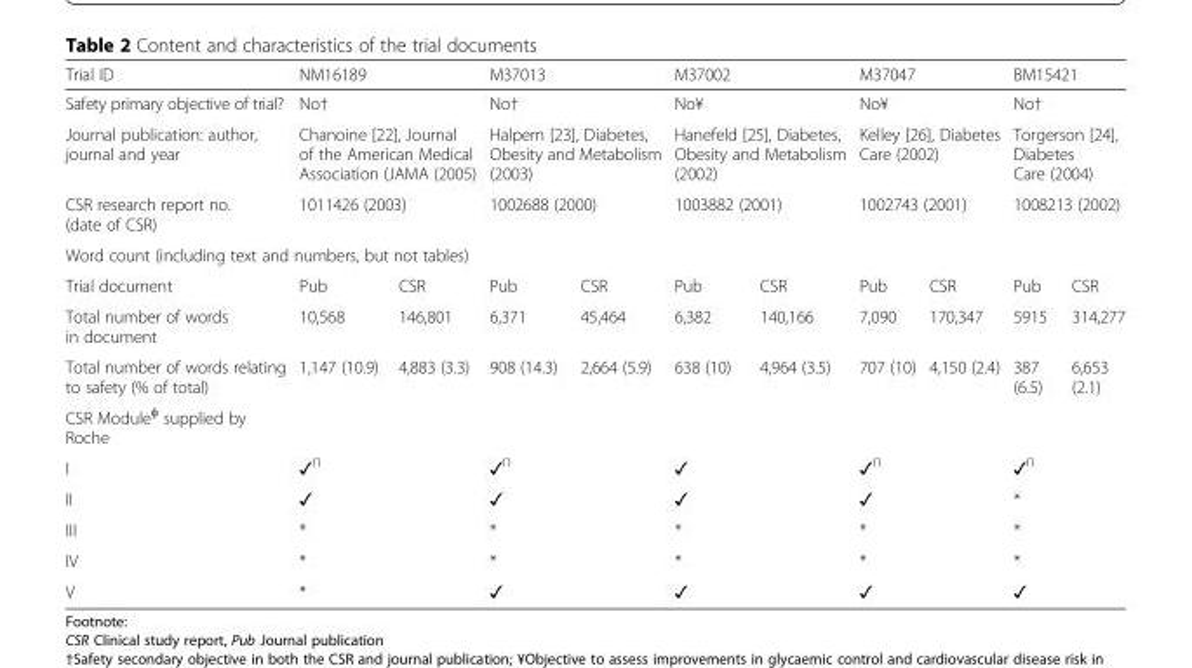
<table><thead><tr><td>Trial ID</td><td colspan="2">NM16189</td><td colspan="2">M37013</td><td colspan="2">M37002</td><td colspan="2">M37047</td><td colspan="2">BM15421</td></tr></thead><tbody><tr><td>Safety primary objective of trial?</td><td colspan="2">No†</td><td colspan="2">No†</td><td colspan="2">No¥</td><td colspan="2">No¥</td><td colspan="2">No†</td></tr><tr><td>Journal publication: author, journal and year</td><td colspan="2">Chanoine [22], Journal of the American Medical Association (JAMA (2005)</td><td colspan="2">Halpern [23], Diabetes, Obesity and Metabolism (2003)</td><td colspan="2">Hanefeld [25], Diabetes, Obesity and Metabolism (2002)</td><td colspan="2">Kelley [26], Diabetes Care (2002)</td><td colspan="2">Torgerson [24], Diabetes Care (2004)</td></tr><tr><td>CSR research report no. (date of CSR)</td><td colspan="2">1011426 (2003)</td><td colspan="2">1002688 (2000)</td><td colspan="2">1003882 (2001)</td><td colspan="2">1002743 (2001)</td><td colspan="2">1008213 (2002)</td></tr><tr><td colspan="11">Word count (including text and numbers, but not tables)</td></tr><tr><td>Trial document</td><td>Pub</td><td>CSR</td><td>Pub</td><td>CSR</td><td>Pub</td><td>CSR</td><td>Pub</td><td>CSR</td><td>Pub</td><td>CSR</td></tr><tr><td>Total number of words in document</td><td>10,568</td><td>146,801</td><td>6,371</td><td>45,464</td><td>6,382</td><td>140,166</td><td>7,090</td><td>170,347</td><td>5915</td><td>314,277</td></tr><tr><td>Total number of words relating to safety (% of total)</td><td>1,147 (10.9)</td><td>4,883 (3.3)</td><td>908 (14.3)</td><td>2,664 (5.9)</td><td>638 (10)</td><td>4,964 (3.5)</td><td>707 (10)</td><td>4,150 (2.4)</td><td>387 (6.5)</td><td>6,653 (2.1)</td></tr><tr><td colspan="11">CSR Module<sup>ɸ</sup> supplied by Roche</td></tr><tr><td>I</td><td colspan="2">✓<sup>Π</sup></td><td colspan="2">✓<sup>Π</sup></td><td colspan="2">✓</td><td colspan="2">✓<sup>Π</sup></td><td colspan="2">✓<sup>Π</sup></td></tr><tr><td>II</td><td colspan="2">✓</td><td colspan="2">✓</td><td colspan="2">✓</td><td colspan="2">✓</td><td colspan="2">*</td></tr><tr><td>III</td><td colspan="2">*</td><td colspan="2">*</td><td colspan="2">*</td><td colspan="2">*</td><td colspan="2">*</td></tr><tr><td>IV</td><td colspan="2">*</td><td colspan="2">*</td><td colspan="2">*</td><td colspan="2">*</td><td colspan="2">*</td></tr><tr><td>V</td><td colspan="2">*</td><td colspan="2">✓</td><td colspan="2">✓</td><td colspan="2">✓</td><td colspan="2">✓</td></tr></tbody></table>